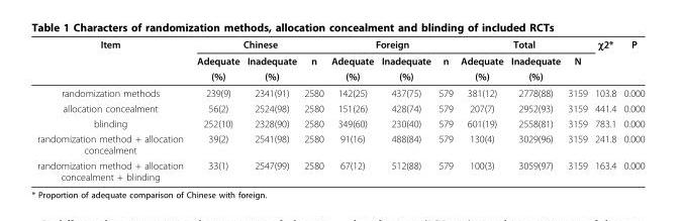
<table><thead><tr><td rowspan="3">Item</td><td colspan="3">Chinese</td><td colspan="3">Foreign</td><td colspan="3">Total</td><td rowspan="3">χ2*</td><td rowspan="3">P</td></tr><tr><td rowspan="2">Adequate (%)</td><td rowspan="2">Inadequate (%)</td><td rowspan="2">n</td><td rowspan="2">Adequate (%)</td><td rowspan="2">Inadequate (%)</td><td rowspan="2">n</td><td rowspan="2">Adequate (%)</td><td rowspan="2">Inadequate (%)</td><td rowspan="2">N</td></tr><tr></tr></thead><tbody><tr><td>randomization methods</td><td>239(9)</td><td>2341(91)</td><td>2580</td><td>142(25)</td><td>437(75)</td><td>579</td><td>381(12)</td><td>2778(88)</td><td>3159</td><td>103.8</td><td>0.000</td></tr><tr><td>allocation concealment</td><td>56(2)</td><td>2524(98)</td><td>2580</td><td>151(26)</td><td>428(74)</td><td>579</td><td>207(7)</td><td>2952(93)</td><td>3159</td><td>441.4</td><td>0.000</td></tr><tr><td>blinding</td><td>252(10)</td><td>2328(90)</td><td>2580</td><td>349(60)</td><td>230(40)</td><td>579</td><td>601(19)</td><td>2558(81)</td><td>3159</td><td>783.1</td><td>0.000</td></tr><tr><td>randomization method + allocation concealment</td><td>39(2)</td><td>2541(98)</td><td>2580</td><td>91(16)</td><td>488(84)</td><td>579</td><td>130(4)</td><td>3029(96)</td><td>3159</td><td>241.8</td><td>0.000</td></tr><tr><td>randomization method + allocation concealment + blinding</td><td>33(1)</td><td>2547(99)</td><td>2580</td><td>67(12)</td><td>512(88)</td><td>579</td><td>100(3)</td><td>3059(97)</td><td>3159</td><td>163.4</td><td>0.000</td></tr></tbody></table>